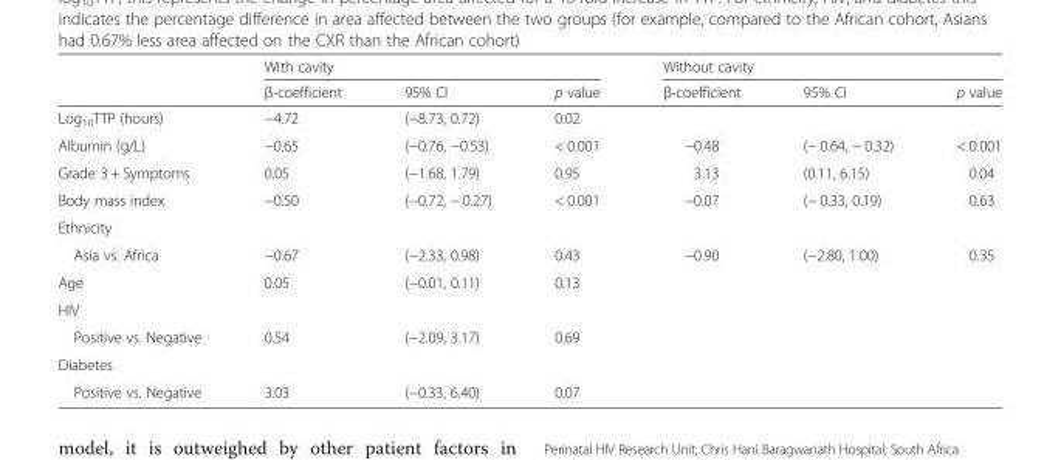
<table><thead><tr><td rowspan="2"></td><td colspan="3">With cavity</td><td colspan="3">Without cavity</td></tr><tr><td>β-coefficient</td><td>95% CI</td><td>p value</td><td>β-coefficient</td><td>95% CI</td><td>p value</td></tr></thead><tbody><tr><td>Log<sub>10</sub>TTP (hours)</td><td>−4.72</td><td>(−8.73, 0.72)</td><td>0.02</td><td></td><td></td><td></td></tr><tr><td>Albumin (g/L)</td><td>−0.65</td><td>(−0.76, −0.53)</td><td>&lt; 0.001</td><td>−0.48</td><td>(− 0.64, − 0.32)</td><td>&lt; 0.001</td></tr><tr><td>Grade 3 + Symptoms</td><td>0.05</td><td>(−1.68, 1.79)</td><td>0.95</td><td>3.13</td><td>(0.11, 6.15)</td><td>0.04</td></tr><tr><td>Body mass index</td><td>−0.50</td><td>(−0.72, − 0.27)</td><td>&lt; 0.001</td><td>−0.07</td><td>(− 0.33, 0.19)</td><td>0.63</td></tr><tr><td colspan="7">Ethnicity</td></tr><tr><td>Asia vs. Africa</td><td>−0.67</td><td>(−2.33, 0.98)</td><td>0.43</td><td>−0.90</td><td>(−2.80, 1.00)</td><td>0.35</td></tr><tr><td>Age</td><td>0.05</td><td>(−0.01, 0.11)</td><td>0.13</td><td></td><td></td><td></td></tr><tr><td colspan="7">HIV</td></tr><tr><td>Positive vs. Negative</td><td>0.54</td><td>(−2.09, 3.17)</td><td>0.69</td><td></td><td></td><td></td></tr><tr><td colspan="7">Diabetes</td></tr><tr><td>Positive vs. Negative</td><td>3.03</td><td>(−0.33, 6.40)</td><td>0.07</td><td></td><td></td><td></td></tr></tbody></table>